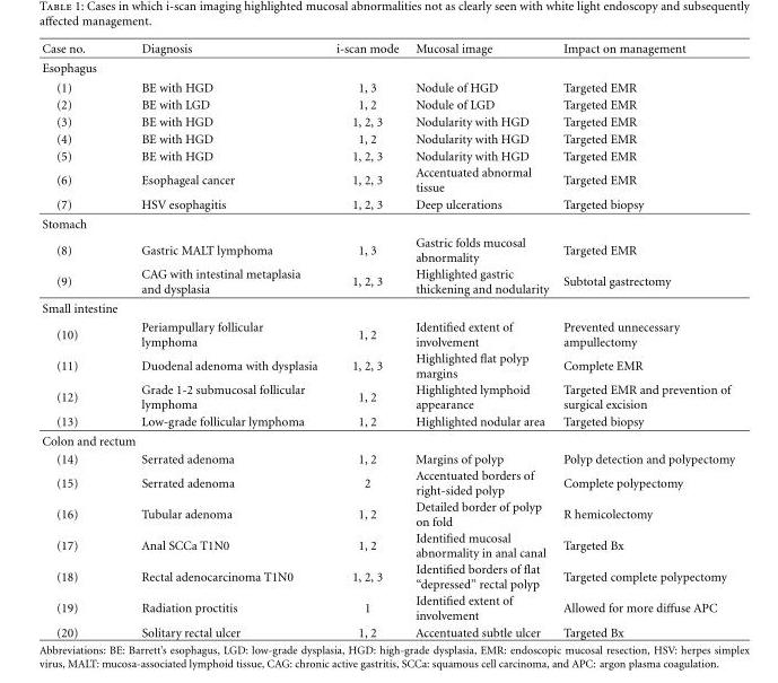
<table><thead><tr><td>Case no.</td><td>Diagnosis</td><td>i-scan mode</td><td>Mucosal image</td><td>Impact on management</td></tr></thead><tbody><tr><td colspan="5">Esophagus</td></tr><tr><td>(1)</td><td>BE with HGD</td><td>1, 3</td><td>Nodule of HGD</td><td>Targeted EMR</td></tr><tr><td>(2)</td><td>BE with LGD</td><td>1, 2</td><td>Nodule of LGD</td><td>Targeted EMR</td></tr><tr><td>(3)</td><td>BE with HGD</td><td>1, 2, 3</td><td>Nodularity with HGD</td><td>Targeted EMR</td></tr><tr><td>(4)</td><td>BE with HGD</td><td>1, 2</td><td>Nodularity with HGD</td><td>Targeted EMR</td></tr><tr><td>(5)</td><td>BE with HGD</td><td>1, 2, 3</td><td>Nodularity with HGD</td><td>Targeted EMR</td></tr><tr><td>(6)</td><td>Esophageal cancer</td><td>1, 2, 3</td><td>Accentuated abnormal tissue</td><td>Targeted EMR</td></tr><tr><td>(7)</td><td>HSV esophagitis</td><td>1, 2, 3</td><td>Deep ulcerations</td><td>Targeted biopsy</td></tr><tr><td colspan="5">Stomach</td></tr><tr><td>(8)</td><td>Gastric MALT lymphoma</td><td>1, 3</td><td>Gastric folds mucosal abnormality</td><td>Targeted EMR</td></tr><tr><td>(9)</td><td>CAG with intestinal metaplasia and dysplasia</td><td>1, 2, 3</td><td>Highlighted gastric thickening and nodularity</td><td>Subtotal gastrectomy</td></tr><tr><td colspan="5">Small intestine</td></tr><tr><td>(10)</td><td>Periampullary follicular lymphoma</td><td>1, 2</td><td>Identified extent of involvement</td><td>Prevented unnecessary ampullectomy</td></tr><tr><td>(11)</td><td>Duodenal adenoma with dysplasia</td><td>1, 2, 3</td><td>Highlighted flat polyp margins</td><td>Complete EMR</td></tr><tr><td>(12)</td><td>Grade 1-2 submucosal follicular lymphoma</td><td>1, 2</td><td>Highlighted lymphoid appearance</td><td>Targeted EMR and prevention of surgical excision</td></tr><tr><td>(13)</td><td>Low-grade follicular lymphoma</td><td>1, 2</td><td>Highlighted nodular area</td><td>Targeted biopsy</td></tr><tr><td colspan="5">Colon and rectum</td></tr><tr><td>(14)</td><td>Serrated adenoma</td><td>1, 2</td><td>Margins of polyp</td><td>Polyp detection and polypectomy</td></tr><tr><td>(15)</td><td>Serrated adenoma</td><td>2</td><td>Accentuated borders of right-sided polyp</td><td>Complete polypectomy</td></tr><tr><td>(16)</td><td>Tubular adenoma</td><td>1, 2</td><td>Detailed border of polyp on fold</td><td>R hemicolectomy</td></tr><tr><td>(17)</td><td>Anal SCCa T1N0</td><td>1, 2</td><td>Identified mucosal abnormality in anal canal</td><td>Targeted Bx</td></tr><tr><td>(18)</td><td>Rectal adenocarcinoma T1N0</td><td>1, 2, 3</td><td>Identified borders of flat “depressed” rectal polyp</td><td>Targeted complete polypectomy</td></tr><tr><td>(19)</td><td>Radiation proctitis</td><td>1</td><td>Identified extent of involvement</td><td>Allowed for more diffuse APC</td></tr><tr><td>(20)</td><td>Solitary rectal ulcer</td><td>1, 2</td><td>Accentuated subtle ulcer</td><td>Targeted Bx</td></tr></tbody></table>